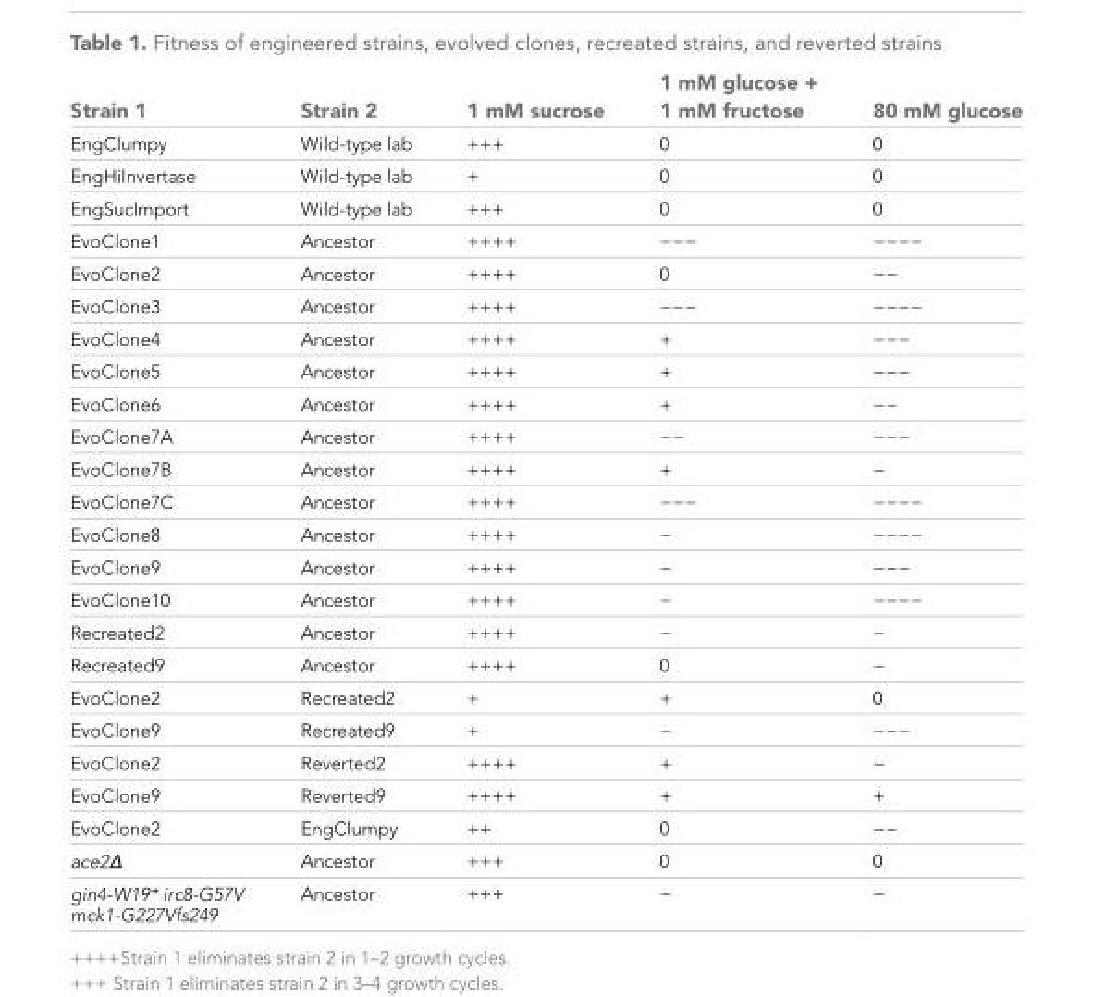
<table><thead><tr><td>Strain 1</td><td>Strain 2</td><td>1 mM sucrose</td><td>1 mM glucose + 1 mM fructose</td><td>80 mM glucose</td></tr></thead><tbody><tr><td>EngClumpy</td><td>Wild-type lab</td><td>+++</td><td>0</td><td>0</td></tr><tr><td>EngHiInvertase</td><td>Wild-type lab</td><td>+</td><td>0</td><td>0</td></tr><tr><td>EngSucImport</td><td>Wild-type lab</td><td>+++</td><td>0</td><td>0</td></tr><tr><td>EvoClone1</td><td>Ancestor</td><td>++++</td><td>−−−</td><td>−−−−</td></tr><tr><td>EvoClone2</td><td>Ancestor</td><td>++++</td><td>0</td><td>−−</td></tr><tr><td>EvoClone3</td><td>Ancestor</td><td>++++</td><td>−−−</td><td>−−−−</td></tr><tr><td>EvoClone4</td><td>Ancestor</td><td>++++</td><td>+</td><td>−−−</td></tr><tr><td>EvoClone5</td><td>Ancestor</td><td>++++</td><td>+</td><td>−−−</td></tr><tr><td>EvoClone6</td><td>Ancestor</td><td>++++</td><td>+</td><td>−−</td></tr><tr><td>EvoClone7A</td><td>Ancestor</td><td>++++</td><td>−−</td><td>−−−</td></tr><tr><td>EvoClone7B</td><td>Ancestor</td><td>++++</td><td>+</td><td>−</td></tr><tr><td>EvoClone7C</td><td>Ancestor</td><td>++++</td><td>−−−</td><td>−−−−</td></tr><tr><td>EvoClone8</td><td>Ancestor</td><td>++++</td><td>−</td><td>−−−−</td></tr><tr><td>EvoClone9</td><td>Ancestor</td><td>++++</td><td>−</td><td>−−−</td></tr><tr><td>EvoClone10</td><td>Ancestor</td><td>++++</td><td>−</td><td>−−−−</td></tr><tr><td>Recreated2</td><td>Ancestor</td><td>++++</td><td>−</td><td>−</td></tr><tr><td>Recreated9</td><td>Ancestor</td><td>++++</td><td>0</td><td>−</td></tr><tr><td>EvoClone2</td><td>Recreated2</td><td>+</td><td>+</td><td>0</td></tr><tr><td>EvoClone9</td><td>Recreated9</td><td>+</td><td>−</td><td>−−−</td></tr><tr><td>EvoClone2</td><td>Reverted2</td><td>++++</td><td>+</td><td>−</td></tr><tr><td>EvoClone9</td><td>Reverted9</td><td>++++</td><td>+</td><td>+</td></tr><tr><td>EvoClone2</td><td>EngClumpy</td><td>++</td><td>0</td><td>−−</td></tr><tr><td>ace2Δ</td><td>Ancestor</td><td>+++</td><td>0</td><td>0</td></tr><tr><td>gin4-W19* irc8-G57V mck1-G227Vfs249</td><td>Ancestor</td><td>+++</td><td>−</td><td>−</td></tr></tbody></table>